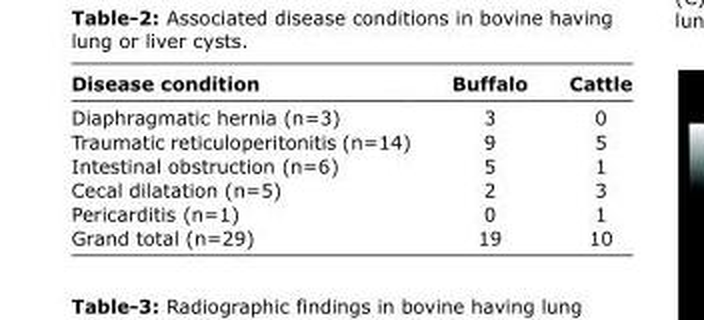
<table><thead><tr><td>Disease condition</td><td>Buffalo</td><td>Cattle</td></tr></thead><tbody><tr><td>Diaphragmatic hernia (n=3)</td><td>3</td><td>0</td></tr><tr><td>Traumatic reticuloperitonitis (n=14)</td><td>9</td><td>5</td></tr><tr><td>Intestinal obstruction (n=6)</td><td>5</td><td>1</td></tr><tr><td>Cecal dilatation (n=5)</td><td>2</td><td>3</td></tr><tr><td>Pericarditis (n=1)</td><td>0</td><td>1</td></tr><tr><td>Grand total (n=29)</td><td>19</td><td>10</td></tr></tbody></table>